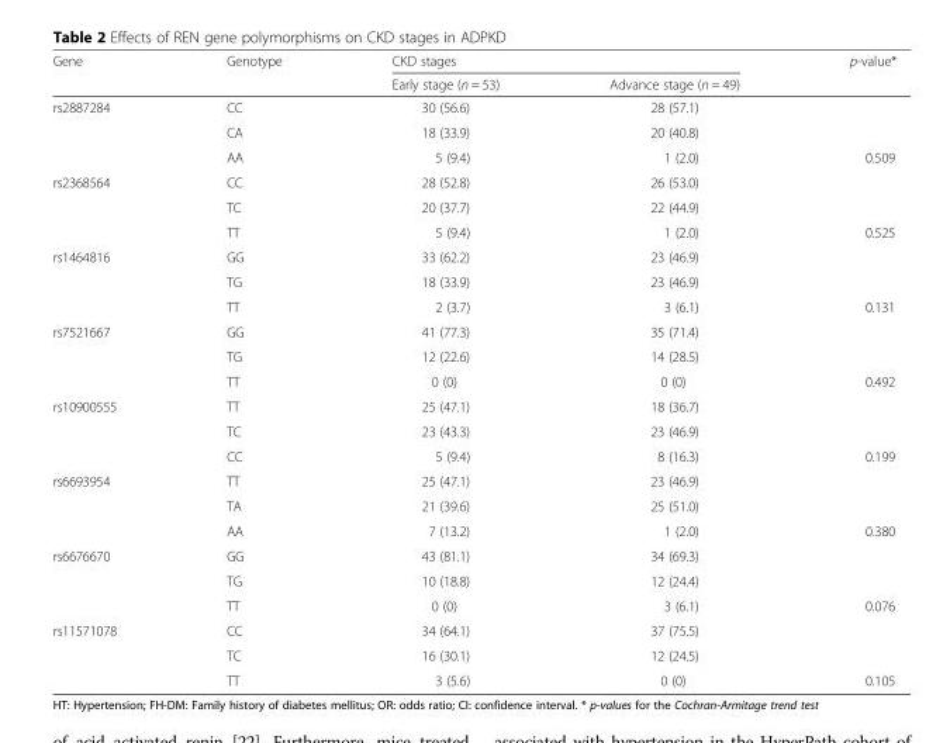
<table><thead><tr><td rowspan="2">Gene</td><td rowspan="2">Genotype</td><td colspan="2">CKD stages</td><td rowspan="2">p-value*</td></tr><tr><td>Early stage (n = 53)</td><td>Advance stage (n = 49)</td></tr></thead><tbody><tr><td rowspan="3">rs2887284</td><td>CC</td><td>30 (56.6)</td><td>28 (57.1)</td><td></td></tr><tr><td>CA</td><td>18 (33.9)</td><td>20 (40.8)</td><td></td></tr><tr><td>AA</td><td>5 (9.4)</td><td>1 (2.0)</td><td>0.509</td></tr><tr><td rowspan="3">rs2368564</td><td>CC</td><td>28 (52.8)</td><td>26 (53.0)</td><td></td></tr><tr><td>TC</td><td>20 (37.7)</td><td>22 (44.9)</td><td></td></tr><tr><td>TT</td><td>5 (9.4)</td><td>1 (2.0)</td><td>0.525</td></tr><tr><td rowspan="3">rs1464816</td><td>GG</td><td>33 (62.2)</td><td>23 (46.9)</td><td></td></tr><tr><td>TG</td><td>18 (33.9)</td><td>23 (46.9)</td><td></td></tr><tr><td>TT</td><td>2 (3.7)</td><td>3 (6.1)</td><td>0.131</td></tr><tr><td rowspan="3">rs7521667</td><td>GG</td><td>41 (77.3)</td><td>35 (71.4)</td><td></td></tr><tr><td>TG</td><td>12 (22.6)</td><td>14 (28.5)</td><td></td></tr><tr><td>TT</td><td>0 (0)</td><td>0 (0)</td><td>0.492</td></tr><tr><td rowspan="3">rs10900555</td><td>TT</td><td>25 (47.1)</td><td>18 (36.7)</td><td></td></tr><tr><td>TC</td><td>23 (43.3)</td><td>23 (46.9)</td><td></td></tr><tr><td>CC</td><td>5 (9.4)</td><td>8 (16.3)</td><td>0.199</td></tr><tr><td rowspan="3">rs6693954</td><td>TT</td><td>25 (47.1)</td><td>23 (46.9)</td><td></td></tr><tr><td>TA</td><td>21 (39.6)</td><td>25 (51.0)</td><td></td></tr><tr><td>AA</td><td>7 (13.2)</td><td>1 (2.0)</td><td>0.380</td></tr><tr><td rowspan="3">rs6676670</td><td>GG</td><td>43 (81.1)</td><td>34 (69.3)</td><td></td></tr><tr><td>TG</td><td>10 (18.8)</td><td>12 (24.4)</td><td></td></tr><tr><td>TT</td><td>0 (0)</td><td>3 (6.1)</td><td>0.076</td></tr><tr><td rowspan="3">rs11571078</td><td>CC</td><td>34 (64.1)</td><td>37 (75.5)</td><td></td></tr><tr><td>TC</td><td>16 (30.1)</td><td>12 (24.5)</td><td></td></tr><tr><td>TT</td><td>3 (5.6)</td><td>0 (0)</td><td>0.105</td></tr></tbody></table>